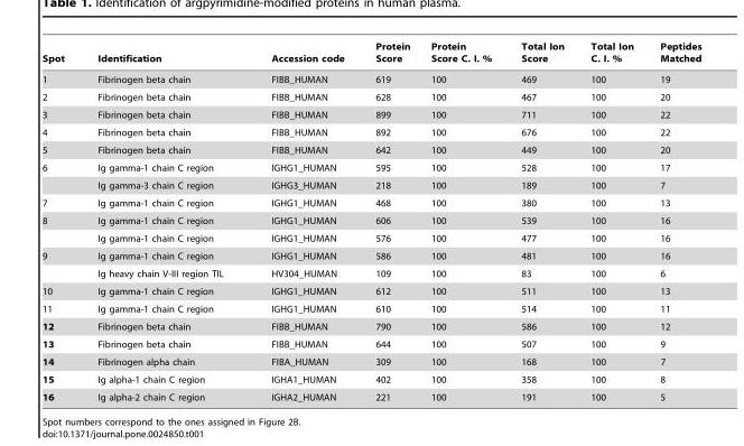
<table><thead><tr><td>Spot</td><td>Identification</td><td>Accession code</td><td>Protein Score</td><td>Protein Score C. I. %</td><td>Total Ion Score</td><td>Total Ion C. I. %</td><td>Peptides Matched</td></tr></thead><tbody><tr><td>1</td><td>Fibrinogen beta chain</td><td>FIBB_HUMAN</td><td>619</td><td>100</td><td>469</td><td>100</td><td>19</td></tr><tr><td>2</td><td>Fibrinogen beta chain</td><td>FIBB_HUMAN</td><td>628</td><td>100</td><td>467</td><td>100</td><td>20</td></tr><tr><td>3</td><td>Fibrinogen beta chain</td><td>FIBB_HUMAN</td><td>899</td><td>100</td><td>711</td><td>100</td><td>22</td></tr><tr><td>4</td><td>Fibrinogen beta chain</td><td>FIBB_HUMAN</td><td>892</td><td>100</td><td>676</td><td>100</td><td>22</td></tr><tr><td>5</td><td>Fibrinogen beta chain</td><td>FIBB_HUMAN</td><td>642</td><td>100</td><td>449</td><td>100</td><td>20</td></tr><tr><td rowspan="2">6</td><td>Ig gamma-1 chain C region</td><td>IGHG1_HUMAN</td><td>595</td><td>100</td><td>528</td><td>100</td><td>17</td></tr><tr><td>Ig gamma-3 chain C region</td><td>IGHG3_HUMAN</td><td>218</td><td>100</td><td>189</td><td>100</td><td>7</td></tr><tr><td>7</td><td>Ig gamma-1 chain C region</td><td>IGHG1_HUMAN</td><td>468</td><td>100</td><td>380</td><td>100</td><td>13</td></tr><tr><td rowspan="2">8</td><td>Ig gamma-1 chain C region</td><td>IGHG1_HUMAN</td><td>606</td><td>100</td><td>539</td><td>100</td><td>16</td></tr><tr><td>Ig gamma-1 chain C region</td><td>IGHG1_HUMAN</td><td>576</td><td>100</td><td>477</td><td>100</td><td>16</td></tr><tr><td rowspan="2">9</td><td>Ig gamma-1 chain C region</td><td>IGHG1_HUMAN</td><td>586</td><td>100</td><td>481</td><td>100</td><td>16</td></tr><tr><td>Ig heavy chain V-III region TIL</td><td>HV304_HUMAN</td><td>109</td><td>100</td><td>83</td><td>100</td><td>6</td></tr><tr><td>10</td><td>Ig gamma-1 chain C region</td><td>IGHG1_HUMAN</td><td>612</td><td>100</td><td>511</td><td>100</td><td>13</td></tr><tr><td>11</td><td>Ig gamma-1 chain C region</td><td>IGHG1_HUMAN</td><td>610</td><td>100</td><td>514</td><td>100</td><td>11</td></tr><tr><td>12</td><td>Fibrinogen beta chain</td><td>FIBB_HUMAN</td><td>790</td><td>100</td><td>586</td><td>100</td><td>12</td></tr><tr><td>13</td><td>Fibrinogen beta chain</td><td>FIBB_HUMAN</td><td>644</td><td>100</td><td>507</td><td>100</td><td>9</td></tr><tr><td>14</td><td>Fibrinogen alpha chain</td><td>FIBA_HUMAN</td><td>309</td><td>100</td><td>168</td><td>100</td><td>7</td></tr><tr><td>15</td><td>Ig alpha-1 chain C region</td><td>IGHA1_HUMAN</td><td>402</td><td>100</td><td>358</td><td>100</td><td>8</td></tr><tr><td>16</td><td>Ig alpha-2 chain C region</td><td>IGHA2_HUMAN</td><td>221</td><td>100</td><td>191</td><td>100</td><td>5</td></tr></tbody></table>